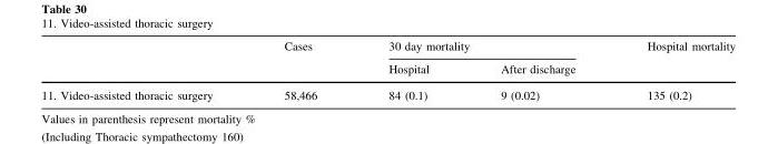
<table><thead><tr><td rowspan="2"></td><td rowspan="2">Cases</td><td colspan="2">30 day mortality</td><td rowspan="2">Hospital mortality</td></tr><tr><td>Hospital</td><td>After discharge</td></tr></thead><tbody><tr><td>11. Video-assisted thoracic surgery</td><td>58,466</td><td>84 (0.1)</td><td>9 (0.02)</td><td>135 (0.2)</td></tr></tbody></table>